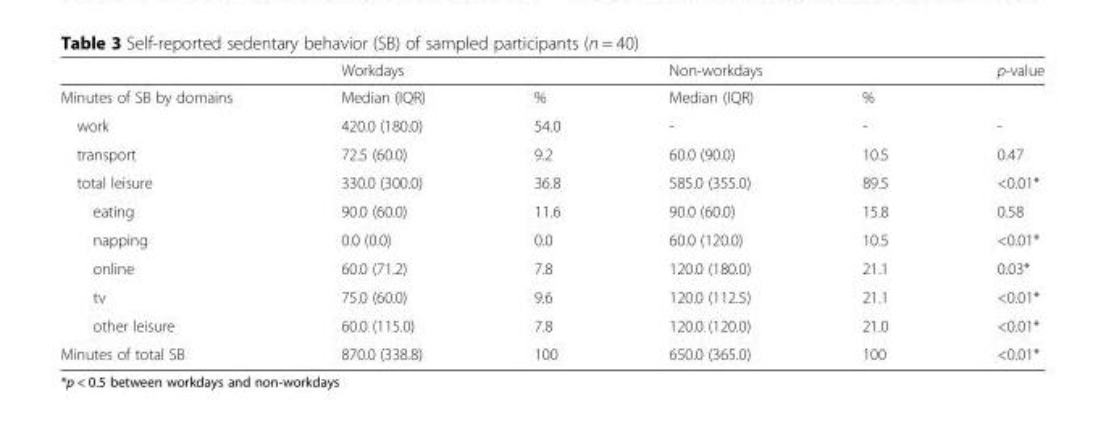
<table><thead><tr><td rowspan="2">Minutes of SB by domains</td><td colspan="2">Workdays</td><td colspan="2">Non-workdays</td><td rowspan="2">p-value</td></tr><tr><td>Median (IQR)</td><td>%</td><td>Median (IQR)</td><td>%</td></tr></thead><tbody><tr><td>work</td><td>420.0 (180.0)</td><td>54.0</td><td>-</td><td>-</td><td>-</td></tr><tr><td>transport</td><td>72.5 (60.0)</td><td>9.2</td><td>60.0 (90.0)</td><td>10.5</td><td>0.47</td></tr><tr><td>total leisure</td><td>330.0 (300.0)</td><td>36.8</td><td>585.0 (355.0)</td><td>89.5</td><td>&lt;0.01*</td></tr><tr><td>eating</td><td>90.0 (60.0)</td><td>11.6</td><td>90.0 (60.0)</td><td>15.8</td><td>0.58</td></tr><tr><td>napping</td><td>0.0 (0.0)</td><td>0.0</td><td>60.0 (120.0)</td><td>10.5</td><td>&lt;0.01*</td></tr><tr><td>online</td><td>60.0 (71.2)</td><td>7.8</td><td>120.0 (180.0)</td><td>21.1</td><td>0.03*</td></tr><tr><td>tv</td><td>75.0 (60.0)</td><td>9.6</td><td>120.0 (112.5)</td><td>21.1</td><td>&lt;0.01*</td></tr><tr><td>other leisure</td><td>60.0 (115.0)</td><td>7.8</td><td>120.0 (120.0)</td><td>21.0</td><td>&lt;0.01*</td></tr><tr><td>Minutes of total SB</td><td>870.0 (338.8)</td><td>100</td><td>650.0 (365.0)</td><td>100</td><td>&lt;0.01*</td></tr></tbody></table>